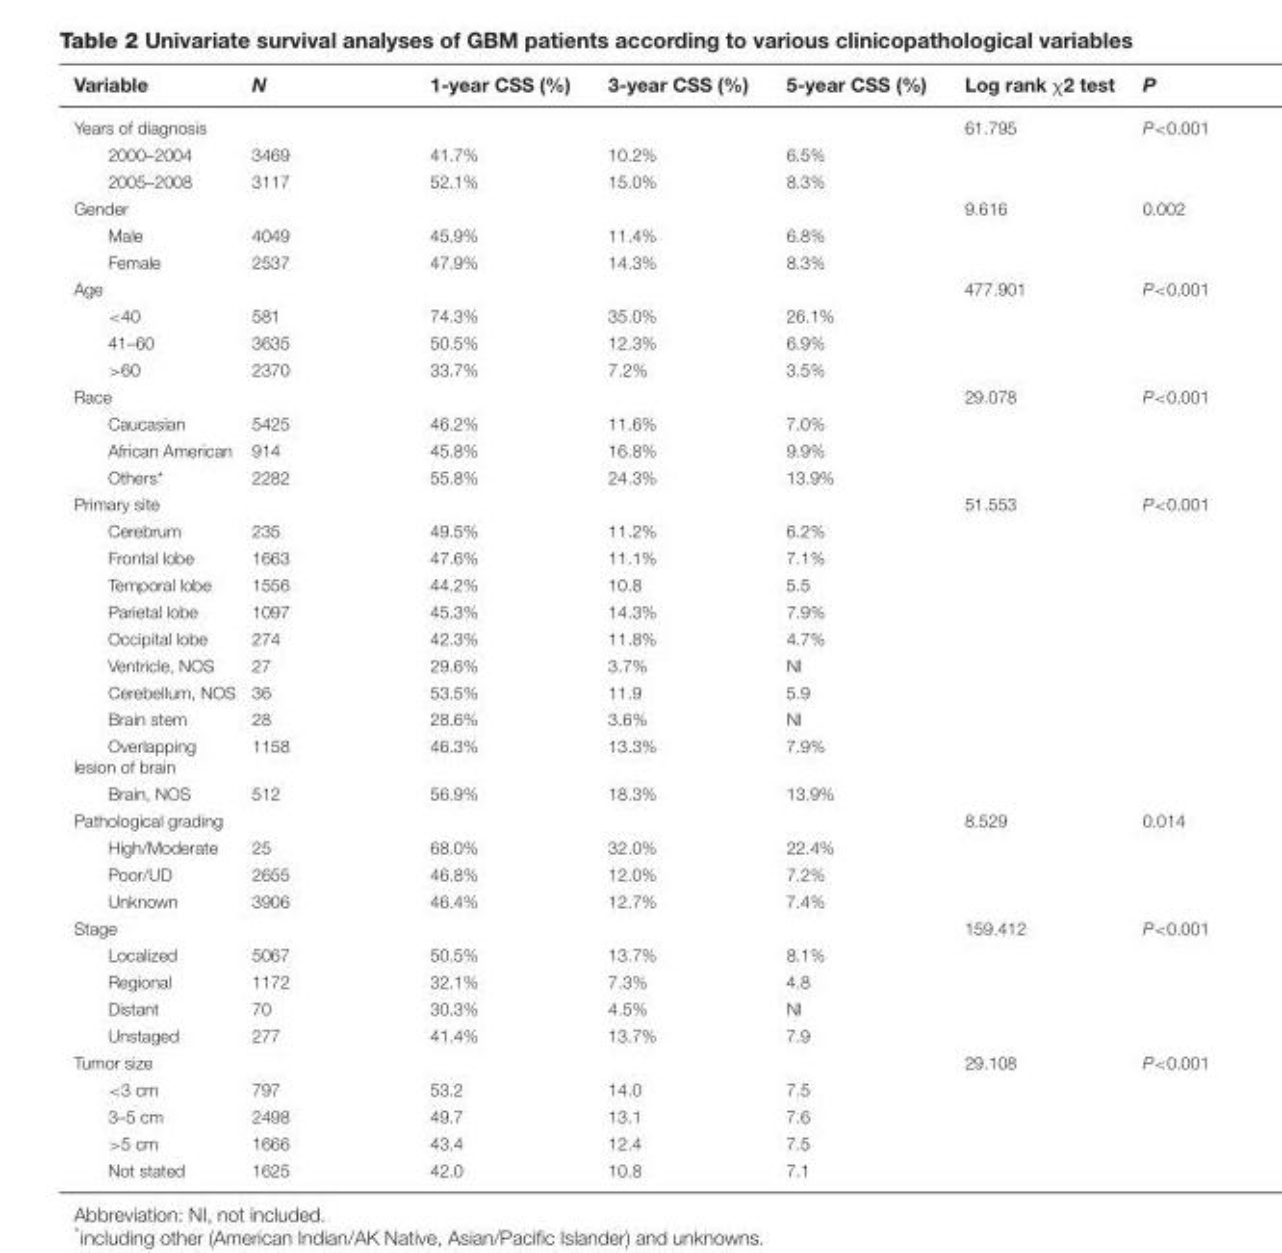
<table><thead><tr><td>Variable</td><td>N</td><td>1-year CSS (%)</td><td>3-year CSS (%)</td><td>5-year CSS (%)</td><td>Log rank χ2 test</td><td>P</td></tr></thead><tbody><tr><td>Years of diagnosis</td><td></td><td></td><td></td><td></td><td>61.795</td><td>P&lt;0.001</td></tr><tr><td>2000–2004</td><td>3469</td><td>41.7%</td><td>10.2%</td><td>6.5%</td><td></td><td></td></tr><tr><td>2005–2008</td><td>3117</td><td>52.1%</td><td>15.0%</td><td>8.3%</td><td></td><td></td></tr><tr><td>Gender</td><td></td><td></td><td></td><td></td><td>9.616</td><td>0.002</td></tr><tr><td>Male</td><td>4049</td><td>45.9%</td><td>11.4%</td><td>6.8%</td><td></td><td></td></tr><tr><td>Female</td><td>2537</td><td>47.9%</td><td>14.3%</td><td>8.3%</td><td></td><td></td></tr><tr><td>Age</td><td></td><td></td><td></td><td></td><td>477.901</td><td>P&lt;0.001</td></tr><tr><td>&lt;40</td><td>581</td><td>74.3%</td><td>35.0%</td><td>26.1%</td><td></td><td></td></tr><tr><td>41–60</td><td>3635</td><td>50.5%</td><td>12.3%</td><td>6.9%</td><td></td><td></td></tr><tr><td>&gt;60</td><td>2370</td><td>33.7%</td><td>7.2%</td><td>3.5%</td><td></td><td></td></tr><tr><td>Race</td><td></td><td></td><td></td><td></td><td>29.078</td><td>P&lt;0.001</td></tr><tr><td>Caucasian</td><td>5425</td><td>46.2%</td><td>11.6%</td><td>7.0%</td><td></td><td></td></tr><tr><td>African American</td><td>914</td><td>45.8%</td><td>16.8%</td><td>9.9%</td><td></td><td></td></tr><tr><td>Others*</td><td>2282</td><td>55.8%</td><td>24.3%</td><td>13.9%</td><td></td><td></td></tr><tr><td>Primary site</td><td></td><td></td><td></td><td></td><td>51.553</td><td>P&lt;0.001</td></tr><tr><td>Cerebrum</td><td>235</td><td>49.5%</td><td>11.2%</td><td>6.2%</td><td></td><td></td></tr><tr><td>Frontal lobe</td><td>1663</td><td>47.6%</td><td>11.1%</td><td>7.1%</td><td></td><td></td></tr><tr><td>Temporal lobe</td><td>1556</td><td>44.2%</td><td>10.8</td><td>5.5</td><td></td><td></td></tr><tr><td>Parietal lobe</td><td>1097</td><td>45.3%</td><td>14.3%</td><td>7.9%</td><td></td><td></td></tr><tr><td>Occipital lobe</td><td>274</td><td>42.3%</td><td>11.8%</td><td>4.7%</td><td></td><td></td></tr><tr><td>Ventricle, NOS</td><td>27</td><td>29.6%</td><td>3.7%</td><td>NI</td><td></td><td></td></tr><tr><td>Cerebellum, NOS</td><td>36</td><td>53.5%</td><td>11.9</td><td>5.9</td><td></td><td></td></tr><tr><td>Brain stem</td><td>28</td><td>28.6%</td><td>3.6%</td><td>NI</td><td></td><td></td></tr><tr><td>Overlapping lesion of brain</td><td>1158</td><td>46.3%</td><td>13.3%</td><td>7.9%</td><td></td><td></td></tr><tr><td>Brain, NOS</td><td>512</td><td>56.9%</td><td>18.3%</td><td>13.9%</td><td></td><td></td></tr><tr><td>Pathological grading</td><td></td><td></td><td></td><td></td><td>8.529</td><td>0.014</td></tr><tr><td>High/Moderate</td><td>25</td><td>68.0%</td><td>32.0%</td><td>22.4%</td><td></td><td></td></tr><tr><td>Poor/UD</td><td>2655</td><td>46.8%</td><td>12.0%</td><td>7.2%</td><td></td><td></td></tr><tr><td>Unknown</td><td>3906</td><td>46.4%</td><td>12.7%</td><td>7.4%</td><td></td><td></td></tr><tr><td>Stage</td><td></td><td></td><td></td><td></td><td>159.412</td><td>P&lt;0.001</td></tr><tr><td>Localized</td><td>5067</td><td>50.5%</td><td>13.7%</td><td>8.1%</td><td></td><td></td></tr><tr><td>Regional</td><td>1172</td><td>32.1%</td><td>7.3%</td><td>4.8</td><td></td><td></td></tr><tr><td>Distant</td><td>70</td><td>30.3%</td><td>4.5%</td><td>NI</td><td></td><td></td></tr><tr><td>Unstaged</td><td>277</td><td>41.4%</td><td>13.7%</td><td>7.9</td><td></td><td></td></tr><tr><td>Tumor size</td><td></td><td></td><td></td><td></td><td>29.108</td><td>P&lt;0.001</td></tr><tr><td>&lt;3 cm</td><td>797</td><td>53.2</td><td>14.0</td><td>7.5</td><td></td><td></td></tr><tr><td>3–5 cm</td><td>2498</td><td>49.7</td><td>13.1</td><td>7.6</td><td></td><td></td></tr><tr><td>&gt;5 cm</td><td>1666</td><td>43.4</td><td>12.4</td><td>7.5</td><td></td><td></td></tr><tr><td>Not stated</td><td>1625</td><td>42.0</td><td>10.8</td><td>7.1</td><td></td><td></td></tr></tbody></table>